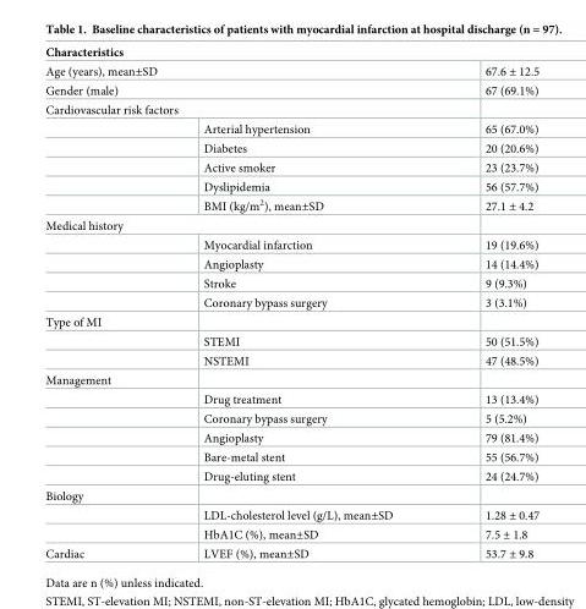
<table><thead><tr><td colspan="3">Characteristics</td></tr></thead><tbody><tr><td colspan="2">Age (years), mean±SD</td><td>67.6 ± 12.5</td></tr><tr><td colspan="2">Gender (male)</td><td>67 (69.1%)</td></tr><tr><td colspan="3">Cardiovascular risk factors</td></tr><tr><td></td><td>Arterial hypertension</td><td>65 (67.0%)</td></tr><tr><td></td><td>Diabetes</td><td>20 (20.6%)</td></tr><tr><td></td><td>Active smoker</td><td>23 (23.7%)</td></tr><tr><td></td><td>Dyslipidemia</td><td>56 (57.7%)</td></tr><tr><td></td><td>BMI (kg/m<sup>2</sup>), mean±SD</td><td>27.1 ± 4.2</td></tr><tr><td colspan="3">Medical history</td></tr><tr><td></td><td>Myocardial infarction</td><td>19 (19.6%)</td></tr><tr><td></td><td>Angioplasty</td><td>14 (14.4%)</td></tr><tr><td></td><td>Stroke</td><td>9 (9.3%)</td></tr><tr><td></td><td>Coronary bypass surgery</td><td>3 (3.1%)</td></tr><tr><td colspan="3">Type of MI</td></tr><tr><td></td><td>STEMI</td><td>50 (51.5%)</td></tr><tr><td></td><td>NSTEMI</td><td>47 (48.5%)</td></tr><tr><td colspan="3">Management</td></tr><tr><td></td><td>Drug treatment</td><td>13 (13.4%)</td></tr><tr><td></td><td>Coronary bypass surgery</td><td>5 (5.2%)</td></tr><tr><td></td><td>Angioplasty</td><td>79 (81.4%)</td></tr><tr><td></td><td>Bare-metal stent</td><td>55 (56.7%)</td></tr><tr><td></td><td>Drug-eluting stent</td><td>24 (24.7%)</td></tr><tr><td colspan="3">Biology</td></tr><tr><td></td><td>LDL-cholesterol level (g/L), mean±SD</td><td>1.28 ± 0.47</td></tr><tr><td></td><td>HbA1C (%), mean±SD</td><td>7.5 ± 1.8</td></tr><tr><td>Cardiac</td><td>LVEF (%), mean±SD</td><td>53.7 ± 9.8</td></tr></tbody></table>